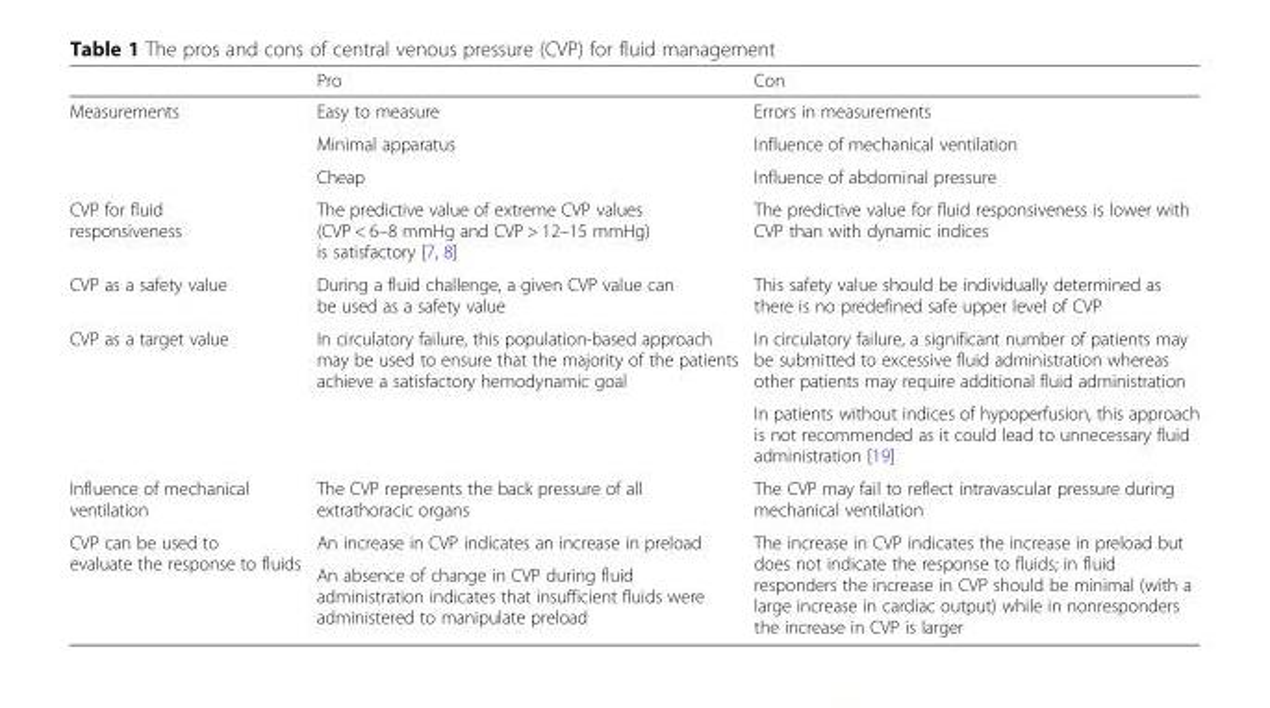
<table><thead><tr><td></td><td>Pro</td><td>Con</td></tr></thead><tbody><tr><td rowspan="3">Measurements</td><td>Easy to measure</td><td>Errors in measurements</td></tr><tr><td>Minimal apparatus</td><td>Influence of mechanical ventilation</td></tr><tr><td>Cheap</td><td>Influence of abdominal pressure</td></tr><tr><td>CVP for fluid responsiveness</td><td>The predictive value of extreme CVP values (CVP &lt; 6–8 mmHg and CVP &gt; 12–15 mmHg) is satisfactory [7, 8]</td><td>The predictive value for fluid responsiveness is lower with CVP than with dynamic indices</td></tr><tr><td>CVP as a safety value</td><td>During a fluid challenge, a given CVP value can be used as a safety value</td><td>This safety value should be individually determined as there is no predefined safe upper level of CVP</td></tr><tr><td rowspan="2">CVP as a target value</td><td rowspan="2">In circulatory failure, this population-based approach may be used to ensure that the majority of the patients achieve a satisfactory hemodynamic goal</td><td>In circulatory failure, a significant number of patients may be submitted to excessive fluid administration whereas other patients may require additional fluid administration</td></tr><tr><td>In patients without indices of hypoperfusion, this approach is not recommended as it could lead to unnecessary fluid administration [19]</td></tr><tr><td>Influence of mechanical ventilation</td><td>The CVP represents the back pressure of all extrathoracic organs</td><td>The CVP may fail to reflect intravascular pressure during mechanical ventilation</td></tr><tr><td rowspan="2">CVP can be used to evaluate the response to fluids</td><td>An increase in CVP indicates an increase in preload</td><td rowspan="2">The increase in CVP indicates the increase in preload but does not indicate the response to fluids; in fluid responders the increase in CVP should be minimal (with a large increase in cardiac output) while in nonresponders the increase in CVP is larger</td></tr><tr><td>An absence of change in CVP during fluid administration indicates that insufficient fluids were administered to manipulate preload</td></tr></tbody></table>